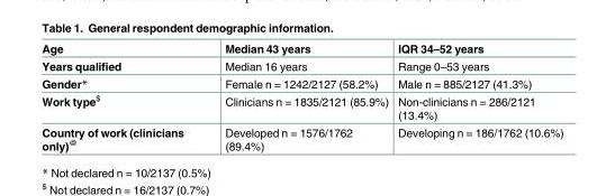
<table><tbody><tr><td>Age</td><td>Median 43 years</td><td>IQR 34–52 years</td></tr><tr><td>Years qualified</td><td>Median 16 years</td><td>Range 0–53 years</td></tr><tr><td>Gender*</td><td>Female n = 1242/2127 (58.2%)</td><td>Male n = 885/2127 (41.3%)</td></tr><tr><td>Work type<sup>$</sup></td><td>Clinicians n = 1835/2121 (85.9%)</td><td>Non-clinicians n = 286/2121 (13.4%)</td></tr><tr><td>Country of work (clinicians only)<sup>@</sup></td><td>Developed n = 1576/1762 (89.4%)</td><td>Developing n = 186/1762 (10.6%)</td></tr></tbody></table>